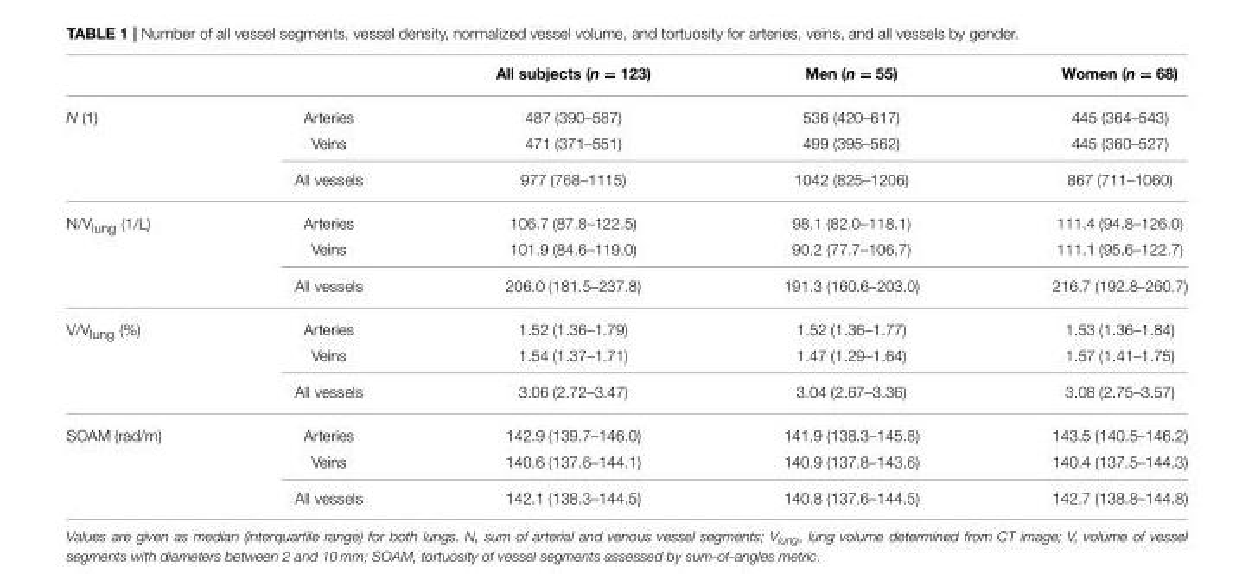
<table><thead><tr><td></td><td></td><td>All subjects (n = 123)</td><td>Men (n = 55)</td><td>Women (n = 68)</td></tr></thead><tbody><tr><td rowspan="3">N (1)</td><td>Arteries</td><td>487 (390–587)</td><td>536 (420–617)</td><td>445 (364–543)</td></tr><tr><td>Veins</td><td>471 (371–551)</td><td>499 (395–562)</td><td>445 (360–527)</td></tr><tr><td>All vessels</td><td>977 (768–1115)</td><td>1042 (825–1206)</td><td>867 (711–1060)</td></tr><tr><td rowspan="3">N/V<sub>lung</sub> (1/L)</td><td>Arteries</td><td>106.7 (87.8–122.5)</td><td>98.1 (82.0–118.1)</td><td>111.4 (94.8–126.0)</td></tr><tr><td>Veins</td><td>101.9 (84.6–119.0)</td><td>90.2 (77.7–106.7)</td><td>111.1 (95.6–122.7)</td></tr><tr><td>All vessels</td><td>206.0 (181.5–237.8)</td><td>191.3 (160.6–203.0)</td><td>216.7 (192.8–260.7)</td></tr><tr><td rowspan="3">V/V<sub>lung</sub> (%)</td><td>Arteries</td><td>1.52 (1.36–1.79)</td><td>1.52 (1.36–1.77)</td><td>1.53 (1.36–1.84)</td></tr><tr><td>Veins</td><td>1.54 (1.37–1.71)</td><td>1.47 (1.29–1.64)</td><td>1.57 (1.41–1.75)</td></tr><tr><td>All vessels</td><td>3.06 (2.72–3.47)</td><td>3.04 (2.67–3.36)</td><td>3.08 (2.75–3.57)</td></tr><tr><td rowspan="3">SOAM (rad/m)</td><td>Arteries</td><td>142.9 (139.7–146.0)</td><td>141.9 (138.3–145.8)</td><td>143.5 (140.5–146.2)</td></tr><tr><td>Veins</td><td>140.6 (137.6–144.1)</td><td>140.9 (137.8–143.6)</td><td>140.4 (137.5–144.3)</td></tr><tr><td>All vessels</td><td>142.1 (138.3–144.5)</td><td>140.8 (137.6–144.5)</td><td>142.7 (138.8–144.8)</td></tr></tbody></table>